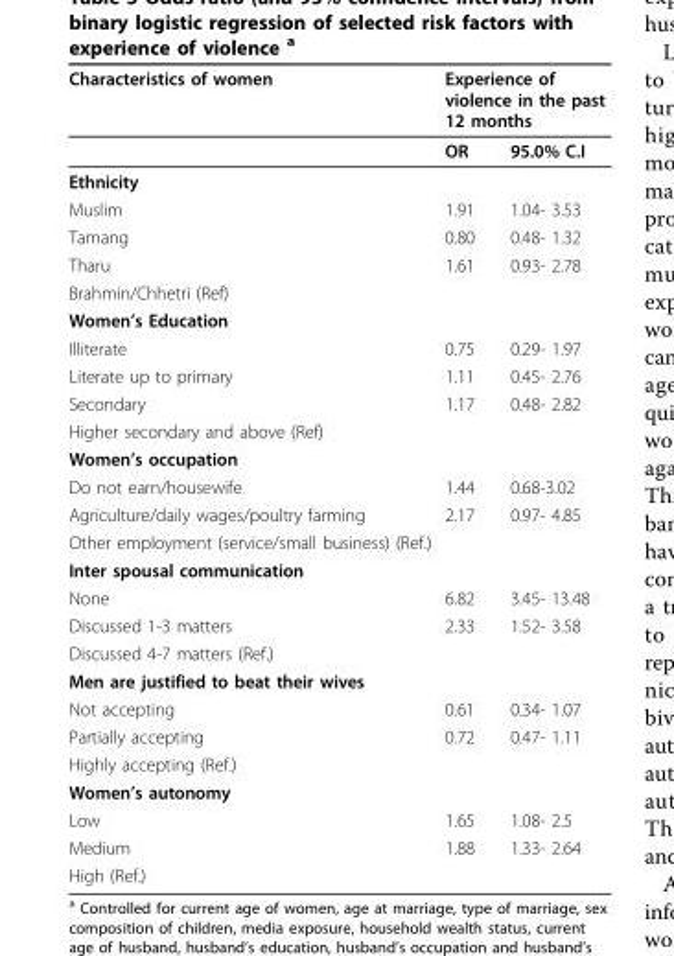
<table><thead><tr><td rowspan="2">Characteristics of women</td><td colspan="2">Experience of violence in the past 12 months</td></tr><tr><td>OR</td><td>95.0% C.I</td></tr></thead><tbody><tr><td colspan="3">Ethnicity</td></tr><tr><td>Muslim</td><td>1.91</td><td>1.04- 3.53</td></tr><tr><td>Tamang</td><td>0.80</td><td>0.48- 1.32</td></tr><tr><td>Tharu</td><td>1.61</td><td>0.93- 2.78</td></tr><tr><td colspan="3">Brahmin/Chhetri (Ref)</td></tr><tr><td colspan="3">Women’s Education</td></tr><tr><td>Illiterate</td><td>0.75</td><td>0.29- 1.97</td></tr><tr><td>Literate up to primary</td><td>1.11</td><td>0.45- 2.76</td></tr><tr><td>Secondary</td><td>1.17</td><td>0.48- 2.82</td></tr><tr><td colspan="3">Higher secondary and above (Ref)</td></tr><tr><td colspan="3">Women’s occupation</td></tr><tr><td>Do not earn/housewife</td><td>1.44</td><td>0.68-3.02</td></tr><tr><td>Agriculture/daily wages/poultry farming</td><td>2.17</td><td>0.97- 4.85</td></tr><tr><td colspan="3">Other employment (service/small business) (Ref.)</td></tr><tr><td colspan="3">Inter spousal communication</td></tr><tr><td>None</td><td>6.82</td><td>3.45- 13.48</td></tr><tr><td>Discussed 1-3 matters</td><td>2.33</td><td>1.52- 3.58</td></tr><tr><td colspan="3">Discussed 4-7 matters (Ref.)</td></tr><tr><td colspan="3">Men are justified to beat their wives</td></tr><tr><td>Not accepting</td><td>0.61</td><td>0.34- 1.07</td></tr><tr><td>Partially accepting</td><td>0.72</td><td>0.47- 1.11</td></tr><tr><td colspan="3">Highly accepting (Ref.)</td></tr><tr><td colspan="3">Women’s autonomy</td></tr><tr><td>Low</td><td>1.65</td><td>1.08- 2.5</td></tr><tr><td>Medium</td><td>1.88</td><td>1.33- 2.64</td></tr><tr><td>High (Ref.)</td><td></td><td></td></tr></tbody></table>